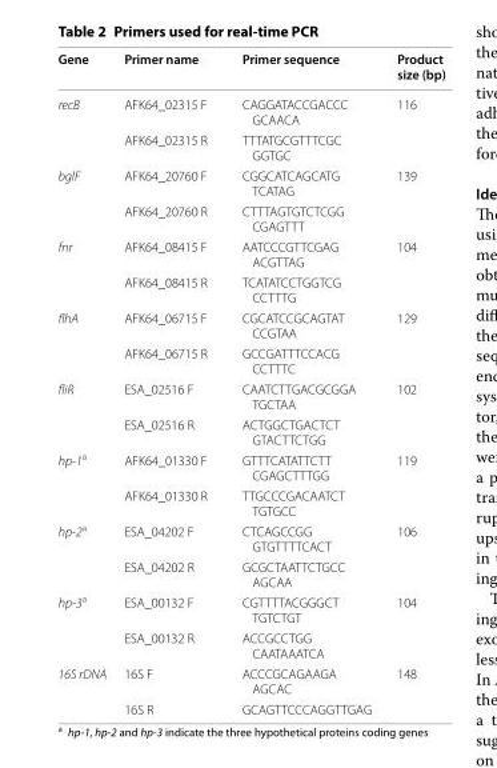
<table><thead><tr><td>Gene</td><td>Primer name</td><td>Primer sequence</td><td>Product size (bp)</td></tr></thead><tbody><tr><td rowspan="2">recB</td><td>AFK64_02315 F</td><td>CAGGATACCGACCC GCAACA</td><td rowspan="2">116</td></tr><tr><td>AFK64_02315 R</td><td>TTTATGCGTTTCGC GGTGC</td></tr><tr><td rowspan="2">bglF</td><td>AFK64_20760 F</td><td>CGGCATCAGCATG TCATAG</td><td rowspan="2">139</td></tr><tr><td>AFK64_20760 R</td><td>CTTTAGTGTCTCGG CGAGTTT</td></tr><tr><td rowspan="2">fnr</td><td>AFK64_08415 F</td><td>AATCCCGTTCGAG ACGTTAG</td><td rowspan="2">104</td></tr><tr><td>AFK64_08415 R</td><td>TCATATCCTGGTCG CCTTTG</td></tr><tr><td rowspan="2">flhA</td><td>AFK64_06715 F</td><td>CGCATCCGCAGTAT CCGTAA</td><td rowspan="2">129</td></tr><tr><td>AFK64_06715 R</td><td>GCCGATTTCCACG CCTTTC</td></tr><tr><td rowspan="2">fliR</td><td>ESA_02516 F</td><td>CAATCTTGACGCGGA TGCTAA</td><td rowspan="2">102</td></tr><tr><td>ESA_02516 R</td><td>ACTGGCTGACTCT GTACTTCTGG</td></tr><tr><td rowspan="2">hp‑1<sup>a</sup></td><td>AFK64_01330 F</td><td>GTTTCATATTCTT CGAGCTTTGG</td><td rowspan="2">119</td></tr><tr><td>AFK64_01330 R</td><td>TTGCCCGACAATCT TGTGCC</td></tr><tr><td rowspan="2">hp‑2<sup>a</sup></td><td>ESA_04202 F</td><td>CTCAGCCGG GTGTTTTCACT</td><td rowspan="2">106</td></tr><tr><td>ESA_04202 R</td><td>GCGCTAATTCTGCC AGCAA</td></tr><tr><td rowspan="2">hp‑3<sup>a</sup></td><td>ESA_00132 F</td><td>CGTTTTACGGGCT TGTCTGT</td><td rowspan="2">104</td></tr><tr><td>ESA_00132 R</td><td>ACCGCCTGG CAATAAATCA</td></tr><tr><td rowspan="2">16S rDNA</td><td>16S F</td><td>ACCCGCAGAAGA AGCAC</td><td rowspan="2">148</td></tr><tr><td>16S R</td><td>GCAGTTCCCAGGTTGAG</td></tr></tbody></table>